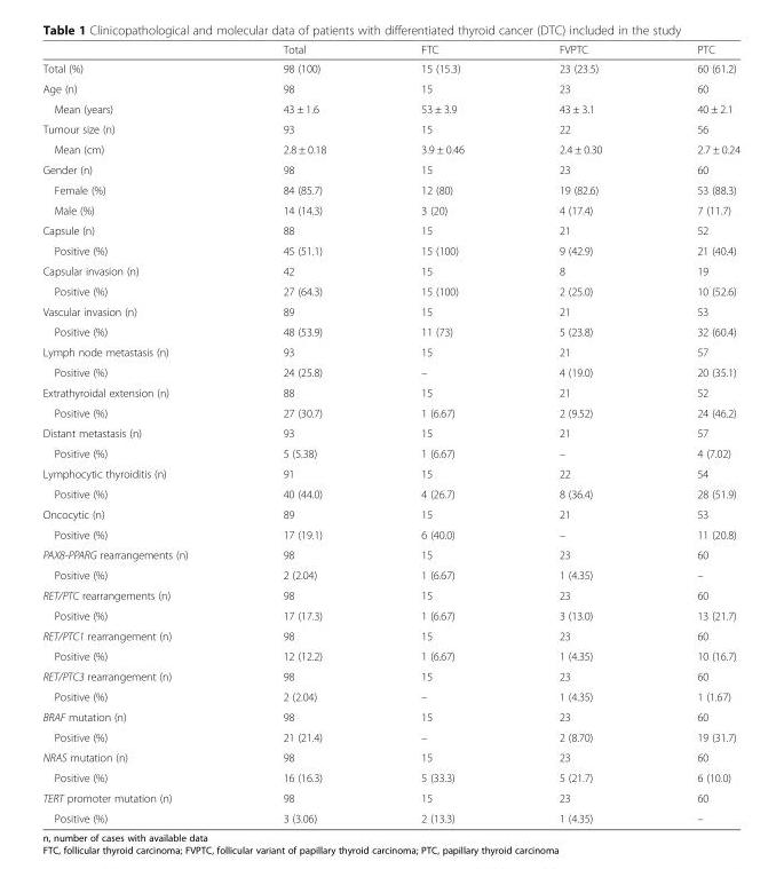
<table><thead><tr><td></td><td>Total</td><td>FTC</td><td>FVPTC</td><td>PTC</td></tr></thead><tbody><tr><td>Total (%)</td><td>98 (100)</td><td>15 (15.3)</td><td>23 (23.5)</td><td>60 (61.2)</td></tr><tr><td>Age (n)</td><td>98</td><td>15</td><td>23</td><td>60</td></tr><tr><td>Mean (years)</td><td>43 ± 1.6</td><td>53 ± 3.9</td><td>43 ± 3.1</td><td>40 ± 2.1</td></tr><tr><td>Tumour size (n)</td><td>93</td><td>15</td><td>22</td><td>56</td></tr><tr><td>Mean (cm)</td><td>2.8 ± 0.18</td><td>3.9 ± 0.46</td><td>2.4 ± 0.30</td><td>2.7 ± 0.24</td></tr><tr><td>Gender (n)</td><td>98</td><td>15</td><td>23</td><td>60</td></tr><tr><td>Female (%)</td><td>84 (85.7)</td><td>12 (80)</td><td>19 (82.6)</td><td>53 (88.3)</td></tr><tr><td>Male (%)</td><td>14 (14.3)</td><td>3 (20)</td><td>4 (17.4)</td><td>7 (11.7)</td></tr><tr><td>Capsule (n)</td><td>88</td><td>15</td><td>21</td><td>52</td></tr><tr><td>Positive (%)</td><td>45 (51.1)</td><td>15 (100)</td><td>9 (42.9)</td><td>21 (40.4)</td></tr><tr><td>Capsular invasion (n)</td><td>42</td><td>15</td><td>8</td><td>19</td></tr><tr><td>Positive (%)</td><td>27 (64.3)</td><td>15 (100)</td><td>2 (25.0)</td><td>10 (52.6)</td></tr><tr><td>Vascular invasion (n)</td><td>89</td><td>15</td><td>21</td><td>53</td></tr><tr><td>Positive (%)</td><td>48 (53.9)</td><td>11 (73)</td><td>5 (23.8)</td><td>32 (60.4)</td></tr><tr><td>Lymph node metastasis (n)</td><td>93</td><td>15</td><td>21</td><td>57</td></tr><tr><td>Positive (%)</td><td>24 (25.8)</td><td>–</td><td>4 (19.0)</td><td>20 (35.1)</td></tr><tr><td>Extrathyroidal extension (n)</td><td>88</td><td>15</td><td>21</td><td>52</td></tr><tr><td>Positive (%)</td><td>27 (30.7)</td><td>1 (6.67)</td><td>2 (9.52)</td><td>24 (46.2)</td></tr><tr><td>Distant metastasis (n)</td><td>93</td><td>15</td><td>21</td><td>57</td></tr><tr><td>Positive (%)</td><td>5 (5.38)</td><td>1 (6.67)</td><td>–</td><td>4 (7.02)</td></tr><tr><td>Lymphocytic thyroiditis (n)</td><td>91</td><td>15</td><td>22</td><td>54</td></tr><tr><td>Positive (%)</td><td>40 (44.0)</td><td>4 (26.7)</td><td>8 (36.4)</td><td>28 (51.9)</td></tr><tr><td>Oncocytic (n)</td><td>89</td><td>15</td><td>21</td><td>53</td></tr><tr><td>Positive (%)</td><td>17 (19.1)</td><td>6 (40.0)</td><td>–</td><td>11 (20.8)</td></tr><tr><td>PAX8-PPARG rearrangements (n)</td><td>98</td><td>15</td><td>23</td><td>60</td></tr><tr><td>Positive (%)</td><td>2 (2.04)</td><td>1 (6.67)</td><td>1 (4.35)</td><td>–</td></tr><tr><td>RET/PTC rearrangements (n)</td><td>98</td><td>15</td><td>23</td><td>60</td></tr><tr><td>Positive (%)</td><td>17 (17.3)</td><td>1 (6.67)</td><td>3 (13.0)</td><td>13 (21.7)</td></tr><tr><td>RET/PTC1 rearrangement (n)</td><td>98</td><td>15</td><td>23</td><td>60</td></tr><tr><td>Positive (%)</td><td>12 (12.2)</td><td>1 (6.67)</td><td>1 (4.35)</td><td>10 (16.7)</td></tr><tr><td>RET/PTC3 rearrangement (n)</td><td>98</td><td>15</td><td>23</td><td>60</td></tr><tr><td>Positive (%)</td><td>2 (2.04)</td><td>–</td><td>1 (4.35)</td><td>1 (1.67)</td></tr><tr><td>BRAF mutation (n)</td><td>98</td><td>15</td><td>23</td><td>60</td></tr><tr><td>Positive (%)</td><td>21 (21.4)</td><td>–</td><td>2 (8.70)</td><td>19 (31.7)</td></tr><tr><td>NRAS mutation (n)</td><td>98</td><td>15</td><td>23</td><td>60</td></tr><tr><td>Positive (%)</td><td>16 (16.3)</td><td>5 (33.3)</td><td>5 (21.7)</td><td>6 (10.0)</td></tr><tr><td>TERT promoter mutation (n)</td><td>98</td><td>15</td><td>23</td><td>60</td></tr><tr><td>Positive (%)</td><td>3 (3.06)</td><td>2 (13.3)</td><td>1 (4.35)</td><td>–</td></tr></tbody></table>